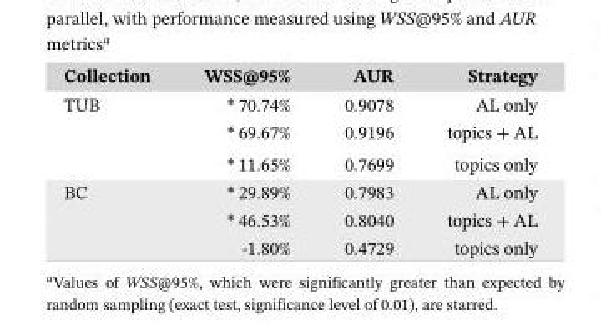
<table><thead><tr><td>Collection</td><td>WSS@95%</td><td>AUR</td><td>Strategy</td></tr></thead><tbody><tr><td rowspan="3">TUB</td><td>* 70.74%</td><td>0.9078</td><td>AL only</td></tr><tr><td>* 69.67%</td><td>0.9196</td><td>topics + AL</td></tr><tr><td>* 11.65%</td><td>0.7699</td><td>topics only</td></tr><tr><td rowspan="3">BC</td><td>* 29.89%</td><td>0.7983</td><td>AL only</td></tr><tr><td>* 46.53%</td><td>0.8040</td><td>topics + AL</td></tr><tr><td>-1.80%</td><td>0.4729</td><td>topics only</td></tr></tbody></table>